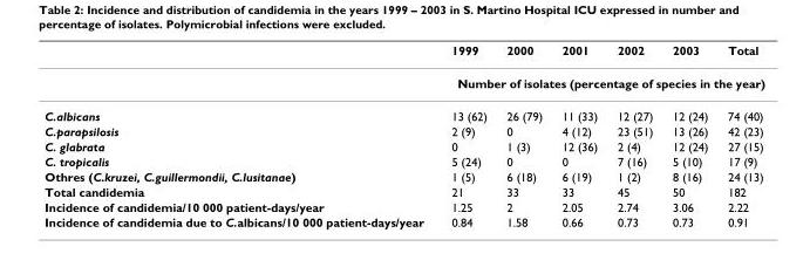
<table><thead><tr><td></td><td>1999</td><td>2000</td><td>2001</td><td>2002</td><td>2003</td><td>Total</td></tr></thead><tbody><tr><td></td><td colspan="6">Number of isolates (percentage of species in the year)</td></tr><tr><td>C.albicans</td><td>13 (62)</td><td>26 (79)</td><td>11 (33)</td><td>12 (27)</td><td>12 (24)</td><td>74 (40)</td></tr><tr><td>C.parapsilosis</td><td>2 (9)</td><td>0</td><td>4 (12)</td><td>23 (51)</td><td>13 (26)</td><td>42 (23)</td></tr><tr><td>C. glabrata</td><td>0</td><td>1 (3)</td><td>12 (36)</td><td>2 (4)</td><td>12 (24)</td><td>27 (15)</td></tr><tr><td>C. tropicalis</td><td>5 (24)</td><td>0</td><td>0</td><td>7 (16)</td><td>5 (10)</td><td>17 (9)</td></tr><tr><td>Othres (C.kruzei, C.guillermondii, C.lusitanae)</td><td>1 (5)</td><td>6 (18)</td><td>6 (19)</td><td>1 (2)</td><td>8 (16)</td><td>24 (13)</td></tr><tr><td>Total candidemia</td><td>21</td><td>33</td><td>33</td><td>45</td><td>50</td><td>182</td></tr><tr><td>Incidence of candidemia/10 000 patient-days/year</td><td>1.25</td><td>2</td><td>2.05</td><td>2.74</td><td>3.06</td><td>2.22</td></tr><tr><td>Incidence of candidemia due to C.albicans/10 000 patient-days/year</td><td>0.84</td><td>1.58</td><td>0.66</td><td>0.73</td><td>0.73</td><td>0.91</td></tr></tbody></table>